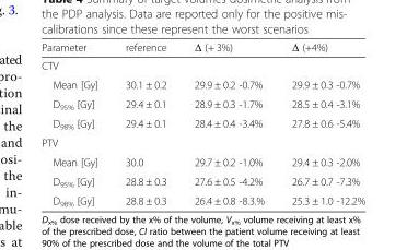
<table><thead><tr><td>Parameter</td><td>reference</td><td>Δ (+ 3%)</td><td>Δ (+4%)</td></tr></thead><tbody><tr><td colspan="4">CTV</td></tr><tr><td>Mean [Gy]</td><td>30.1 ± 0.2</td><td>29.9 ± 0.2 -0.7%</td><td>29.9 ± 0.3 -0.7%</td></tr><tr><td>D<sub>95%</sub> [Gy]</td><td>29.4 ± 0.1</td><td>28.9 ± 0.3 -1.7%</td><td>28.5 ± 0.4 -3.1%</td></tr><tr><td>D<sub>98%</sub> [Gy]</td><td>29.4 ± 0.1</td><td>28.4 ± 0.4 -3.4%</td><td>27.8 ± 0.6 -5.4%</td></tr><tr><td colspan="4">PTV</td></tr><tr><td>Mean [Gy]</td><td>30.0</td><td>29.7 ± 0.2 -1.0%</td><td>29.4 ± 0.3 -2.0%</td></tr><tr><td>D<sub>95%</sub> [Gy]</td><td>28.8 ± 0.3</td><td>27.6 ± 0.5 -4.2%</td><td>26.7 ± 0.7 -7.3%</td></tr><tr><td>D<sub>98%</sub> [Gy]</td><td>28.8 ± 0.3</td><td>26.4 ± 0.8 -8.3.%</td><td>25.3 ± 1.0 -12.2%</td></tr></tbody></table>